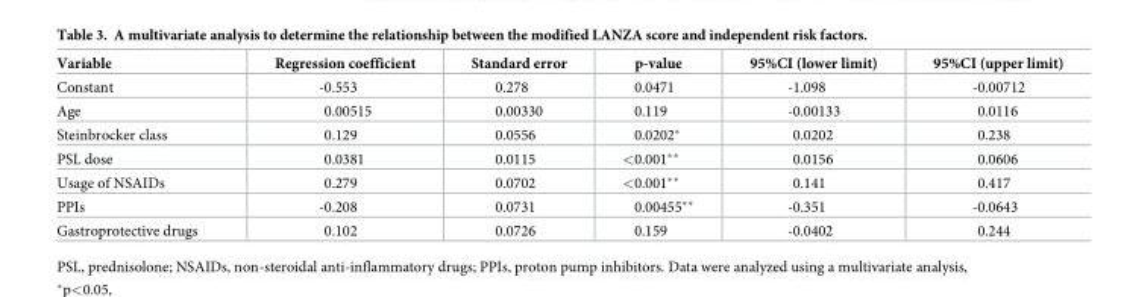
<table><thead><tr><td>Variable</td><td>Regression coefficient</td><td>Standard error</td><td>p-value</td><td>95%CI (lower limit)</td><td>95%CI (upper limit)</td></tr></thead><tbody><tr><td>Constant</td><td>-0.553</td><td>0.278</td><td>0.0471</td><td>-1.098</td><td>-0.00712</td></tr><tr><td>Age</td><td>0.00515</td><td>0.00330</td><td>0.119</td><td>-0.00133</td><td>0.0116</td></tr><tr><td>Steinbrocker class</td><td>0.129</td><td>0.0556</td><td>0.0202*</td><td>0.0202</td><td>0.238</td></tr><tr><td>PSL dose</td><td>0.0381</td><td>0.0115</td><td>&lt;0.001**</td><td>0.0156</td><td>0.0606</td></tr><tr><td>Usage of NSAIDs</td><td>0.279</td><td>0.0702</td><td>&lt;0.001**</td><td>0.141</td><td>0.417</td></tr><tr><td>PPIs</td><td>-0.208</td><td>0.0731</td><td>0.00455**</td><td>-0.351</td><td>-0.0643</td></tr><tr><td>Gastroprotective drugs</td><td>0.102</td><td>0.0726</td><td>0.159</td><td>-0.0402</td><td>0.244</td></tr></tbody></table>